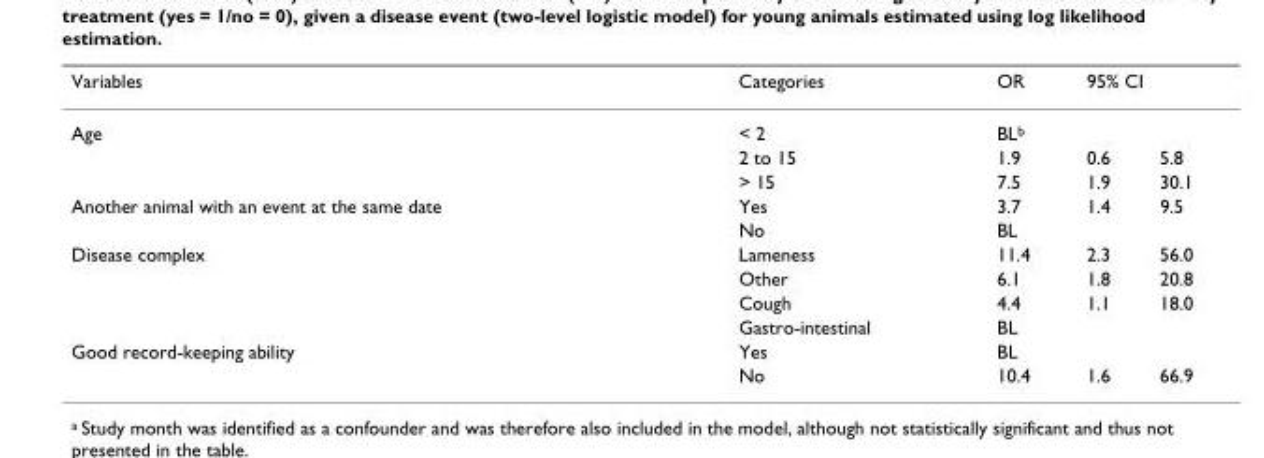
<table><thead><tr><td rowspan="2">Variables Age</td><td rowspan="2">Categories &lt; 2</td><td rowspan="2">OR BL<sup>b</sup></td><td colspan="2">95% CI</td></tr><tr><td></td><td></td></tr></thead><tbody><tr><td></td><td>2 to 15</td><td>1.9</td><td>0.6</td><td>5.8</td></tr><tr><td></td><td>&gt; 15</td><td>7.5</td><td>1.9</td><td>30.1</td></tr><tr><td rowspan="2">Another animal with an event at the same date</td><td>Yes</td><td>3.7</td><td>1.4</td><td>9.5</td></tr><tr><td>No</td><td>BL</td><td></td><td></td></tr><tr><td rowspan="4">Disease complex</td><td>Lameness</td><td>11.4</td><td>2.3</td><td>56.0</td></tr><tr><td>Other</td><td>6.1</td><td>1.8</td><td>20.8</td></tr><tr><td>Cough</td><td>4.4</td><td>1.1</td><td>18.0</td></tr><tr><td>Gastro-intestinal</td><td>BL</td><td></td><td></td></tr><tr><td rowspan="2">Good record-keeping ability</td><td>Yes</td><td>BL</td><td></td><td></td></tr><tr><td>No</td><td>10.4</td><td>1.6</td><td>66.9</td></tr></tbody></table>